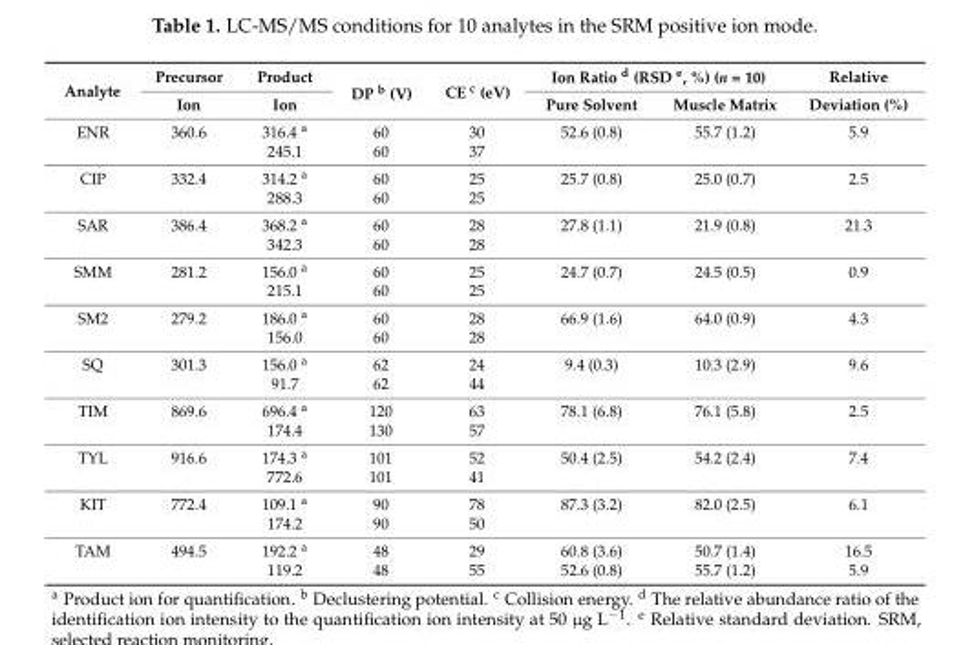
<table><thead><tr><td rowspan="2">Analyte</td><td rowspan="2">Precursor Ion</td><td rowspan="2">Product Ion</td><td rowspan="2">DP <sup>b</sup> (V)</td><td rowspan="2">CE <sup>c</sup> (eV)</td><td colspan="2">Ion Ratio <sup>d</sup> (RSD <sup>e</sup>, %) (n = 10)</td><td rowspan="2">Relative Deviation (%)</td></tr><tr><td>Pure Solvent</td><td>Muscle Matrix</td></tr></thead><tbody><tr><td rowspan="2">ENR</td><td>360.6</td><td>316.4 <sup>a</sup></td><td>60</td><td>30</td><td>52.6 (0.8)</td><td>55.7 (1.2)</td><td>5.9</td></tr><tr><td></td><td>245.1</td><td>60</td><td>37</td><td></td><td></td><td></td></tr><tr><td rowspan="2">CIP</td><td>332.4</td><td>314.2 <sup>a</sup></td><td>60</td><td>25</td><td>25.7 (0.8)</td><td>25.0 (0.7)</td><td>2.5</td></tr><tr><td></td><td>288.3</td><td>60</td><td>25</td><td></td><td></td><td></td></tr><tr><td rowspan="2">SAR</td><td>386.4</td><td>368.2 <sup>a</sup></td><td>60</td><td>28</td><td>27.8 (1.1)</td><td>21.9 (0.8)</td><td>21.3</td></tr><tr><td></td><td>342.3</td><td>60</td><td>28</td><td></td><td></td><td></td></tr><tr><td rowspan="2">SMM</td><td>281.2</td><td>156.0 <sup>a</sup></td><td>60</td><td>25</td><td>24.7 (0.7)</td><td>24.5 (0.5)</td><td>0.9</td></tr><tr><td></td><td>215.1</td><td>60</td><td>25</td><td></td><td></td><td></td></tr><tr><td rowspan="2">SM2</td><td>279.2</td><td>186.0 <sup>a</sup></td><td>60</td><td>28</td><td>66.9 (1.6)</td><td>64.0 (0.9)</td><td>4.3</td></tr><tr><td></td><td>156.0</td><td>60</td><td>28</td><td></td><td></td><td></td></tr><tr><td rowspan="2">SQ</td><td>301.3</td><td>156.0 <sup>a</sup></td><td>62</td><td>24</td><td>9.4 (0.3)</td><td>10.3 (2.9)</td><td>9.6</td></tr><tr><td></td><td>91.7</td><td>62</td><td>44</td><td></td><td></td><td></td></tr><tr><td rowspan="2">TIM</td><td>869.6</td><td>696.4 <sup>a</sup></td><td>120</td><td>63</td><td>78.1 (6.8)</td><td>76.1 (5.8)</td><td>2.5</td></tr><tr><td></td><td>174.4</td><td>130</td><td>57</td><td></td><td></td><td></td></tr><tr><td rowspan="2">TYL</td><td>916.6</td><td>174.3 <sup>a</sup></td><td>101</td><td>52</td><td>50.4 (2.5)</td><td>54.2 (2.4)</td><td>7.4</td></tr><tr><td></td><td>772.6</td><td>101</td><td>41</td><td></td><td></td><td></td></tr><tr><td rowspan="2">KIT</td><td>772.4</td><td>109.1 <sup>a</sup></td><td>90</td><td>78</td><td>87.3 (3.2)</td><td>82.0 (2.5)</td><td>6.1</td></tr><tr><td></td><td>174.2</td><td>90</td><td>50</td><td></td><td></td><td></td></tr><tr><td rowspan="2">TAM</td><td>494.5</td><td>192.2 <sup>a</sup></td><td>48</td><td>29</td><td>60.8 (3.6)</td><td>50.7 (1.4)</td><td>16.5</td></tr><tr><td></td><td>119.2</td><td>48</td><td>55</td><td>52.6 (0.8)</td><td>55.7 (1.2)</td><td>5.9</td></tr></tbody></table>